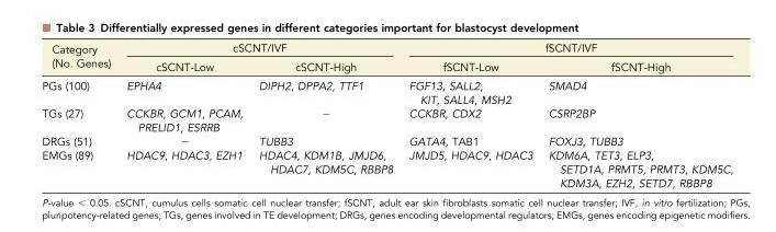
<table><thead><tr><td rowspan="2">Category (No. Genes)</td><td colspan="2">cSCNT/IVF</td><td colspan="2">fSCNT/IVF</td></tr><tr><td>cSCNT-Low</td><td>cSCNT-High</td><td>fSCNT-Low</td><td>fSCNT-High</td></tr></thead><tbody><tr><td>PGs (100)</td><td>EPHA4</td><td>DIPH2, DPPA2, TTF1</td><td>FGF13, SALL2, KIT, SALL4, MSH2</td><td>SMAD4</td></tr><tr><td>TGs (27)</td><td>CCKBR, GCM1, PCAM, PRELID1, ESRRB</td><td>−</td><td>CCKBR, CDX2</td><td>CSRP2BP</td></tr><tr><td>DRGs (51)</td><td>−</td><td>TUBB3</td><td>GATA4, TAB1</td><td>FOXJ3, TUBB3</td></tr><tr><td>EMGs (89)</td><td>HDAC9, HDAC3, EZH1</td><td>HDAC4, KDM1B, JMJD6, HDAC7, KDM5C, RBBP8</td><td>JMJD5, HDAC9, HDAC3</td><td>KDM6A, TET3, ELP3, SETD1A, PRMT5, PRMT3, KDM5C, KDM3A, EZH2, SETD7, RBBP8</td></tr></tbody></table>